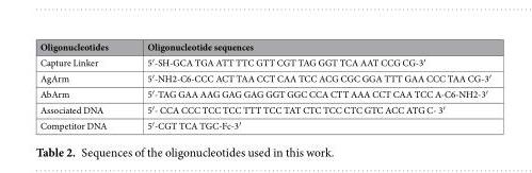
<table><thead><tr><td>Oligonucleotides</td><td>Oligonucleotide sequences</td></tr></thead><tbody><tr><td>Capture Linker</td><td>5′-SH-GCA TGA ATT TTC GTT CGT TAG GGT TCA AAT CCG CG-3′</td></tr><tr><td>AgArm</td><td>5′-NH2-C6-CCC ACT TAA CCT CAA TCC ACG CGC GGA TTT GAA CCC TAA CG-3′</td></tr><tr><td>AbArm</td><td>5′-TAG GAA AAG GAG GAG GGT GGC CCA CTT AAA CCT CAA TCC A-C6-NH2-3′</td></tr><tr><td>Associated DNA</td><td>5′- CCA CCC TCC TCC TTT TCC TAT CTC TCC CTC GTC ACC ATG C- 3′</td></tr><tr><td>Competitor DNA</td><td>5′-CGT TCA TGC-Fc-3′</td></tr></tbody></table>